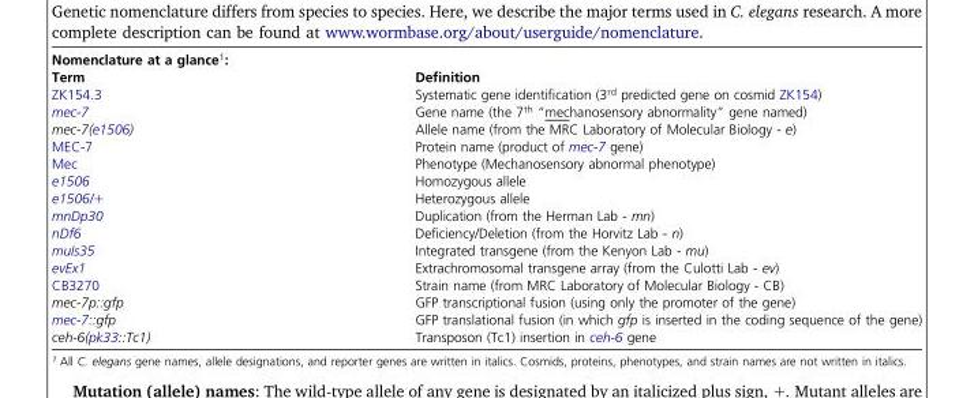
<table><tbody><tr><td colspan="2">Nomenclature at a glance<sup>1</sup>:</td></tr><tr><td>Term</td><td>Definition</td></tr><tr><td>ZK154.3</td><td>Systematic gene identification (3<sup>rd</sup> predicted gene on cosmid ZK154)</td></tr><tr><td>mec-7</td><td>Gene name (the 7<sup>th</sup> “mechanosensory abnormality” gene named)</td></tr><tr><td>mec-7(e1506)</td><td>Allele name (from the MRC Laboratory of Molecular Biology - e)</td></tr><tr><td>MEC-7</td><td>Protein name (product of mec-7 gene)</td></tr><tr><td>Mec</td><td>Phenotype (Mechanosensory abnormal phenotype)</td></tr><tr><td>e1506</td><td>Homozygous allele</td></tr><tr><td>e1506/+</td><td>Heterozygous allele</td></tr><tr><td>mnDp30</td><td>Duplication (from the Herman Lab - mn)</td></tr><tr><td>nDf6</td><td>Deficiency/Deletion (from the Horvitz Lab - n)</td></tr><tr><td>muIs35</td><td>Integrated transgene (from the Kenyon Lab - mu)</td></tr><tr><td>evEx1</td><td>Extrachromosomal transgene array (from the Culotti Lab - ev)</td></tr><tr><td>CB3270</td><td>Strain name (from MRC Laboratory of Molecular Biology - CB)</td></tr><tr><td>mec-7p::gfp</td><td>GFP transcriptional fusion (using only the promoter of the gene)</td></tr><tr><td>mec-7::gfp</td><td>GFP translational fusion (in which gfp is inserted in the coding sequence of the gene)</td></tr><tr><td>ceh-6(pk33::Tc1)</td><td>Transposon (Tc1) insertion in ceh-6 gene</td></tr></tbody></table>